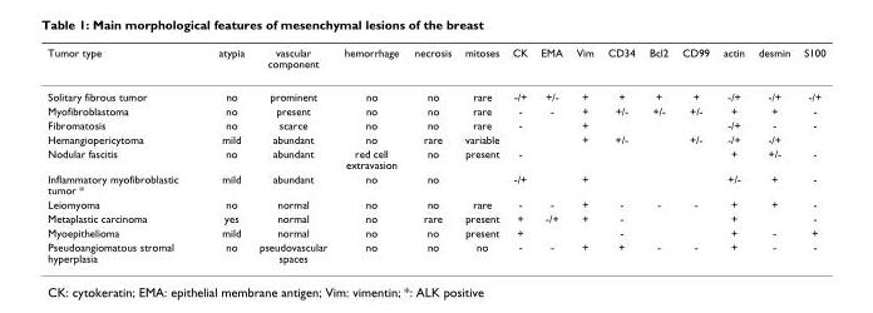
<table><thead><tr><td>Tumor type</td><td>atypia</td><td>vascular component</td><td>hemorrhage</td><td>necrosis</td><td>mitoses</td><td>CK</td><td>EMA</td><td>Vim</td><td>CD34</td><td>Bcl2</td><td>CD99</td><td>actin</td><td>desmin</td><td>S100</td></tr></thead><tbody><tr><td>Solitary fibrous tumor</td><td>no</td><td>prominent</td><td>no</td><td>no</td><td>rare</td><td>-/+</td><td>+/-</td><td>+</td><td>+</td><td>+</td><td>+</td><td>-/+</td><td>-/+</td><td>-/+</td></tr><tr><td>Myofibroblastoma</td><td>no</td><td>present</td><td>no</td><td>no</td><td>rare</td><td>-</td><td>-</td><td>+</td><td>+/-</td><td>+/-</td><td>+/-</td><td>+</td><td>+</td><td>-</td></tr><tr><td>Fibromatosis</td><td>no</td><td>scarce</td><td>no</td><td>no</td><td>rare</td><td>-</td><td></td><td>+</td><td></td><td></td><td></td><td>-/+</td><td>-</td><td>-</td></tr><tr><td>Hemangiopericytoma</td><td>mild</td><td>abundant</td><td>no</td><td>rare</td><td>variable</td><td></td><td></td><td>+</td><td>+/-</td><td></td><td>+/-</td><td>-/+</td><td>-/+</td><td></td></tr><tr><td>Nodular fascitis</td><td>no</td><td>abundant</td><td>red cell extravasion</td><td>no</td><td>present</td><td>-</td><td></td><td></td><td></td><td></td><td></td><td>+</td><td>+/-</td><td>-</td></tr><tr><td>Inflammatory myofibroblastic tumor *</td><td>mild</td><td>abundant</td><td>no</td><td>no</td><td></td><td>-/+</td><td></td><td>+</td><td></td><td></td><td></td><td>+/-</td><td>+</td><td>-</td></tr><tr><td>Leiomyoma</td><td>no</td><td>normal</td><td>no</td><td>no</td><td>rare</td><td>-</td><td>-</td><td>+</td><td>-</td><td>-</td><td>-</td><td>+</td><td>+</td><td>-</td></tr><tr><td>Metaplastic carcinoma</td><td>yes</td><td>normal</td><td>no</td><td>rare</td><td>present</td><td>+</td><td>-/+</td><td>+</td><td>-</td><td></td><td></td><td>+</td><td></td><td>-</td></tr><tr><td>Myoepithelioma</td><td>mild</td><td>normal</td><td>no</td><td>no</td><td>present</td><td>+</td><td></td><td></td><td>-</td><td></td><td></td><td>+</td><td>-</td><td>+</td></tr><tr><td>Pseudoangiomatous stromal hyperplasia</td><td>no</td><td>pseudovascular spaces</td><td>no</td><td>no</td><td>no</td><td>-</td><td>-</td><td>+</td><td>+</td><td>-</td><td>-</td><td>+</td><td>-</td><td>-</td></tr></tbody></table>